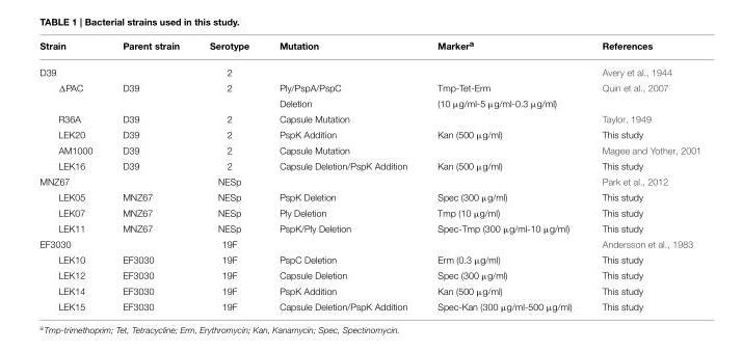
<table><thead><tr><td>Strain</td><td>Parent strain</td><td>Serotype</td><td>Mutation</td><td>Marker<sup>a</sup></td><td>References</td></tr></thead><tbody><tr><td>D39</td><td></td><td>2</td><td></td><td></td><td>Avery et al., 1944</td></tr><tr><td rowspan="2">ΔPAC</td><td>D39</td><td>2</td><td>Ply/PspA/PspC</td><td>Tmp-Tet-Erm</td><td>Quin et al., 2007</td></tr><tr><td></td><td></td><td>Deletion</td><td>(10 µg/ml-5 µg/ml-0.3 µg/ml)</td><td></td></tr><tr><td>R36A</td><td>D39</td><td>2</td><td>Capsule Mutation</td><td></td><td>Taylor, 1949</td></tr><tr><td>LEK20</td><td>D39</td><td>2</td><td>PspK Addition</td><td>Kan (500 µg/ml)</td><td>This study</td></tr><tr><td>AM1000</td><td>D39</td><td>2</td><td>Capsule Mutation</td><td></td><td>Magee and Yother, 2001</td></tr><tr><td>LEK16</td><td>D39</td><td>2</td><td>Capsule Deletion/PspK Addition</td><td>Kan (500 µg/ml)</td><td>This study</td></tr><tr><td>MNZ67</td><td></td><td>NESp</td><td></td><td></td><td>Park et al., 2012</td></tr><tr><td>LEK05</td><td>MNZ67</td><td>NESp</td><td>PspK Deletion</td><td>Spec (300 µg/ml)</td><td>This study</td></tr><tr><td>LEK07</td><td>MNZ67</td><td>NESp</td><td>Ply Deletion</td><td>Tmp (10 µg/ml)</td><td>This study</td></tr><tr><td>LEK11</td><td>MNZ67</td><td>NESp</td><td>PspK/Ply Deletion</td><td>Spec-Tmp (300 µg/ml-10 µg/ml)</td><td>This study</td></tr><tr><td>EF3030</td><td></td><td>19F</td><td></td><td></td><td>Andersson et al., 1983</td></tr><tr><td>LEK10</td><td>EF3030</td><td>19F</td><td>PspC Deletion</td><td>Erm (0.3 µg/ml)</td><td>This study</td></tr><tr><td>LEK12</td><td>EF3030</td><td>19F</td><td>Capsule Deletion</td><td>Spec (300 µg/ml)</td><td>This study</td></tr><tr><td>LEK14</td><td>EF3030</td><td>19F</td><td>PspK Addition</td><td>Kan (500 µg/ml)</td><td>This study</td></tr><tr><td>LEK15</td><td>EF3030</td><td>19F</td><td>Capsule Deletion/PspK Addition</td><td>Spec-Kan (300 µg/ml-500 µg/ml)</td><td>This study</td></tr></tbody></table>